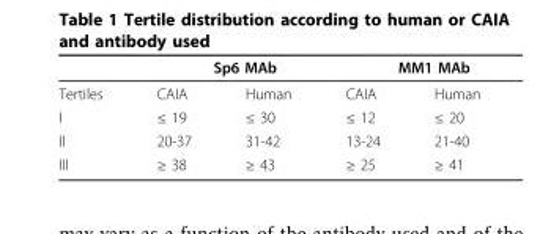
<table><thead><tr><td rowspan="2">Tertiles</td><td colspan="2">Sp6 MAb</td><td colspan="2">MM1 MAb</td></tr><tr><td>CAIA</td><td>Human</td><td>CAIA</td><td>Human</td></tr></thead><tbody><tr><td>I</td><td>≤ 19</td><td>≤ 30</td><td>≤ 12</td><td>≤ 20</td></tr><tr><td>II</td><td>20-37</td><td>31-42</td><td>13-24</td><td>21-40</td></tr><tr><td>III</td><td>≥ 38</td><td>≥ 43</td><td>≥ 25</td><td>≥ 41</td></tr></tbody></table>